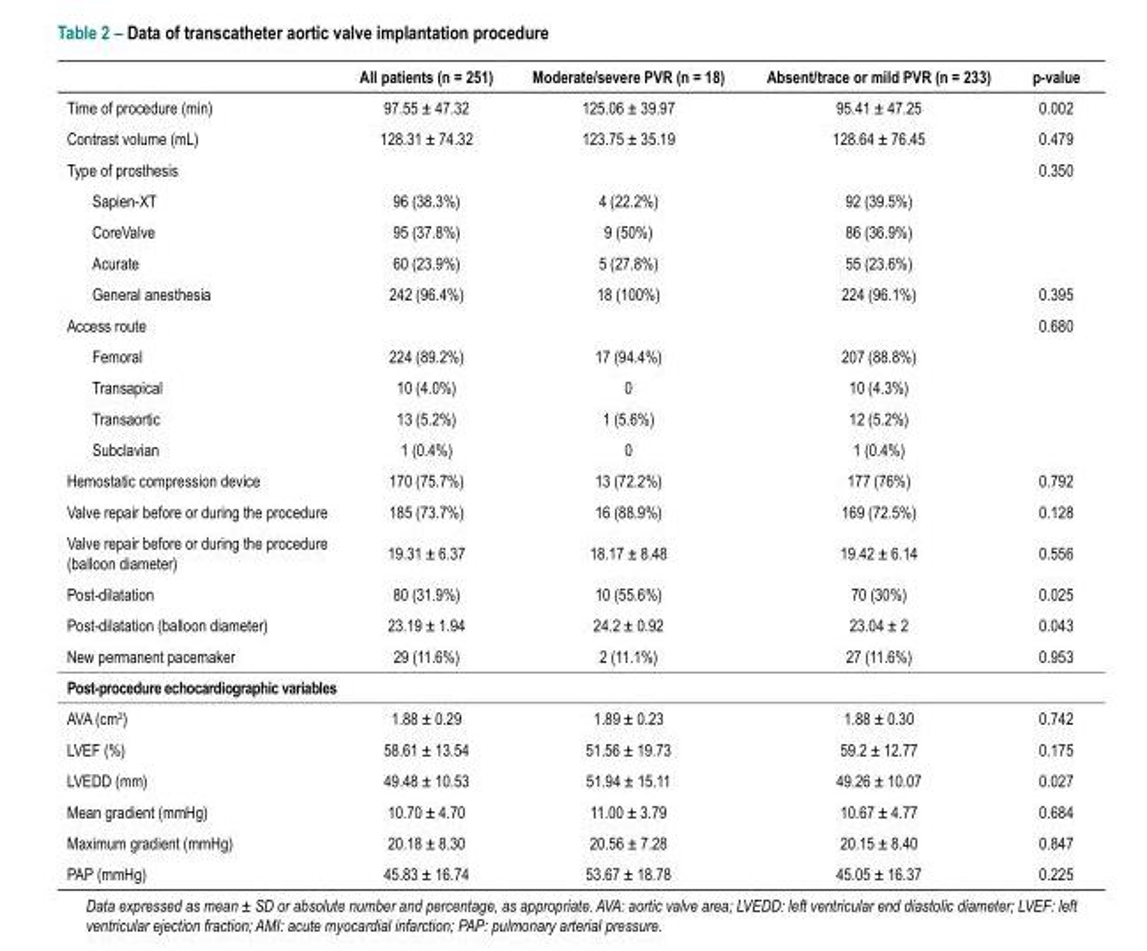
<table><thead><tr><td></td><td>All patients (n = 251)</td><td>Moderate/severe PVR (n = 18)</td><td>Absent/trace or mild PVR (n = 233)</td><td>p-value</td></tr></thead><tbody><tr><td>Time of procedure (min)</td><td>97.55 ± 47.32</td><td>125.06 ± 39.97</td><td>95.41 ± 47.25</td><td>0.002</td></tr><tr><td>Contrast volume (mL)</td><td>128.31 ± 74.32</td><td>123.75 ± 35.19</td><td>128.64 ± 76.45</td><td>0.479</td></tr><tr><td>Type of prosthesis</td><td></td><td></td><td></td><td>0.350</td></tr><tr><td>Sapien-XT</td><td>96 (38.3%)</td><td>4 (22.2%)</td><td>92 (39.5%)</td><td></td></tr><tr><td>CoreValve</td><td>95 (37.8%)</td><td>9 (50%)</td><td>86 (36.9%)</td><td></td></tr><tr><td>Acurate</td><td>60 (23.9%)</td><td>5 (27.8%)</td><td>55 (23.6%)</td><td></td></tr><tr><td>General anesthesia</td><td>242 (96.4%)</td><td>18 (100%)</td><td>224 (96.1%)</td><td>0.395</td></tr><tr><td>Access route</td><td></td><td></td><td></td><td>0.680</td></tr><tr><td>Femoral</td><td>224 (89.2%)</td><td>17 (94.4%)</td><td>207 (88.8%)</td><td></td></tr><tr><td>Transapical</td><td>10 (4.0%)</td><td>0</td><td>10 (4.3%)</td><td></td></tr><tr><td>Transaortic</td><td>13 (5.2%)</td><td>1 (5.6%)</td><td>12 (5.2%)</td><td></td></tr><tr><td>Subclavian</td><td>1 (0.4%)</td><td>0</td><td>1 (0.4%)</td><td></td></tr><tr><td>Hemostatic compression device</td><td>170 (75.7%)</td><td>13 (72.2%)</td><td>177 (76%)</td><td>0.792</td></tr><tr><td>Valve repair before or during the procedure</td><td>185 (73.7%)</td><td>16 (88.9%)</td><td>169 (72.5%)</td><td>0.128</td></tr><tr><td>Valve repair before or during the procedure (balloon diameter)</td><td>19.31 ± 6.37</td><td>18.17 ± 8.48</td><td>19.42 ± 6.14</td><td>0.556</td></tr><tr><td>Post-dilatation</td><td>80 (31.9%)</td><td>10 (55.6%)</td><td>70 (30%)</td><td>0.025</td></tr><tr><td>Post-dilatation (balloon diameter)</td><td>23.19 ± 1.94</td><td>24.2 ± 0.92</td><td>23.04 ± 2</td><td>0.043</td></tr><tr><td>New permanent pacemaker</td><td>29 (11.6%)</td><td>2 (11.1%)</td><td>27 (11.6%)</td><td>0.953</td></tr><tr><td colspan="5">Post-procedure echocardiographic variables</td></tr><tr><td>AVA (cm<sup>2</sup>)</td><td>1.88 ± 0.29</td><td>1.89 ± 0.23</td><td>1.88 ± 0.30</td><td>0.742</td></tr><tr><td>LVEF (%)</td><td>58.61 ± 13.54</td><td>51.56 ± 19.73</td><td>59.2 ± 12.77</td><td>0.175</td></tr><tr><td>LVEDD (mm)</td><td>49.48 ± 10.53</td><td>51.94 ± 15.11</td><td>49.26 ± 10.07</td><td>0.027</td></tr><tr><td>Mean gradient (mmHg)</td><td>10.70 ± 4.70</td><td>11.00 ± 3.79</td><td>10.67 ± 4.77</td><td>0.684</td></tr><tr><td>Maximum gradient (mmHg)</td><td>20.18 ± 8.30</td><td>20.56 ± 7.28</td><td>20.15 ± 8.40</td><td>0.847</td></tr><tr><td>PAP (mmHg)</td><td>45.83 ± 16.74</td><td>53.67 ± 18.78</td><td>45.05 ± 16.37</td><td>0.225</td></tr></tbody></table>